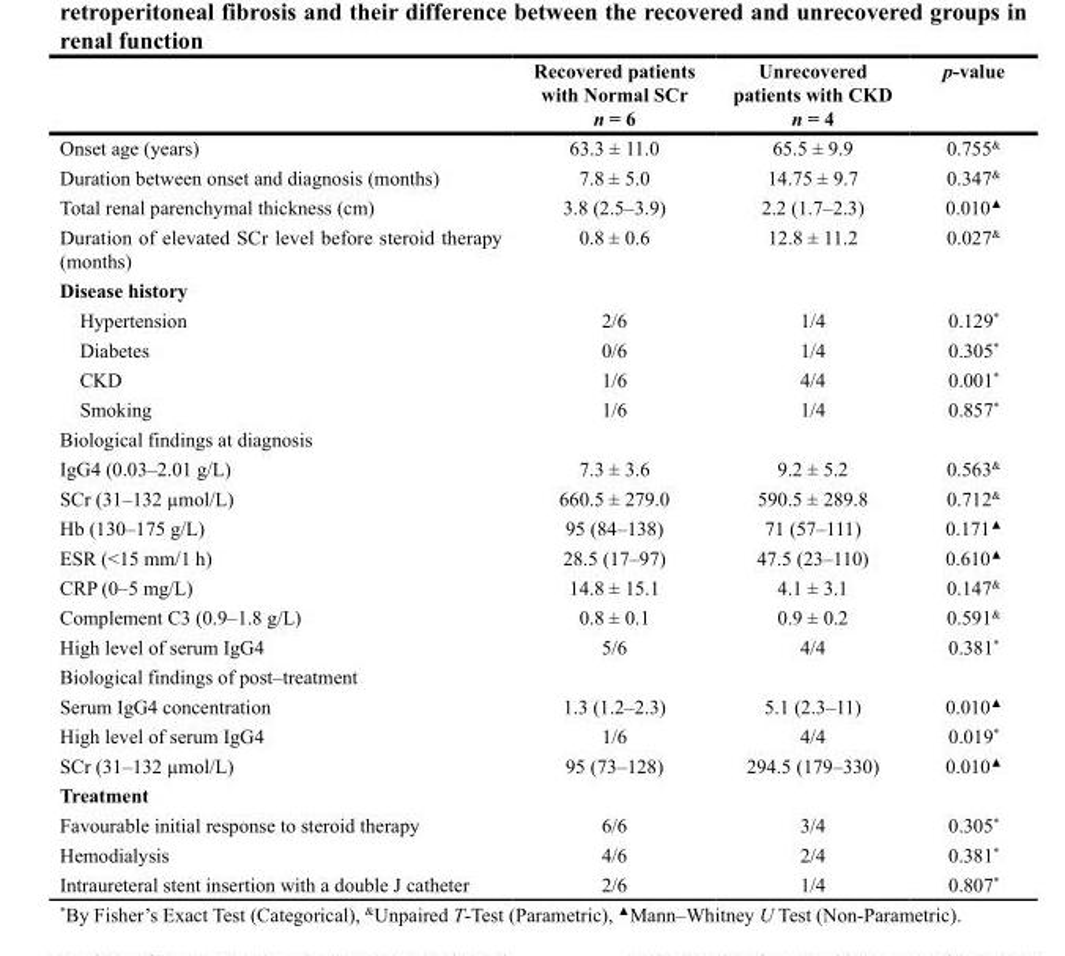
<table><thead><tr><td></td><td>Recovered patients with Normal SCr n = 6</td><td>Unrecovered patients with CKD n = 4</td><td>p-value</td></tr></thead><tbody><tr><td>Onset age (years)</td><td>63.3 ± 11.0</td><td>65.5 ± 9.9</td><td>0.755<sup>&amp;</sup></td></tr><tr><td>Duration between onset and diagnosis (months)</td><td>7.8 ± 5.0</td><td>14.75 ± 9.7</td><td>0.347<sup>&amp;</sup></td></tr><tr><td>Total renal parenchymal thickness (cm)</td><td>3.8 (2.5–3.9)</td><td>2.2 (1.7–2.3)</td><td>0.010<sup>▲</sup></td></tr><tr><td>Duration of elevated SCr level before steroid therapy (months)</td><td>0.8 ± 0.6</td><td>12.8 ± 11.2</td><td>0.027<sup>&amp;</sup></td></tr><tr><td colspan="4">Disease history</td></tr><tr><td>Hypertension</td><td>2/6</td><td>1/4</td><td>0.129*</td></tr><tr><td>Diabetes</td><td>0/6</td><td>1/4</td><td>0.305*</td></tr><tr><td>CKD</td><td>1/6</td><td>4/4</td><td>0.001*</td></tr><tr><td>Smoking</td><td>1/6</td><td>1/4</td><td>0.857*</td></tr><tr><td colspan="4">Biological findings at diagnosis</td></tr><tr><td>IgG4 (0.03–2.01 g/L)</td><td>7.3 ± 3.6</td><td>9.2 ± 5.2</td><td>0.563<sup>&amp;</sup></td></tr><tr><td>SCr (31–132 µmol/L)</td><td>660.5 ± 279.0</td><td>590.5 ± 289.8</td><td>0.712<sup>&amp;</sup></td></tr><tr><td>Hb (130–175 g/L)</td><td>95 (84–138)</td><td>71 (57–111)</td><td>0.171<sup>▲</sup></td></tr><tr><td>ESR (&lt;15 mm/1 h)</td><td>28.5 (17–97)</td><td>47.5 (23–110)</td><td>0.610<sup>▲</sup></td></tr><tr><td>CRP (0–5 mg/L)</td><td>14.8 ± 15.1</td><td>4.1 ± 3.1</td><td>0.147<sup>&amp;</sup></td></tr><tr><td>Complement C3 (0.9–1.8 g/L)</td><td>0.8 ± 0.1</td><td>0.9 ± 0.2</td><td>0.591<sup>&amp;</sup></td></tr><tr><td>High level of serum IgG4</td><td>5/6</td><td>4/4</td><td>0.381*</td></tr><tr><td colspan="4">Biological findings of post–treatment</td></tr><tr><td>Serum IgG4 concentration</td><td>1.3 (1.2–2.3)</td><td>5.1 (2.3–11)</td><td>0.010<sup>▲</sup></td></tr><tr><td>High level of serum IgG4</td><td>1/6</td><td>4/4</td><td>0.019*</td></tr><tr><td>SCr (31–132 µmol/L)</td><td>95 (73–128)</td><td>294.5 (179–330)</td><td>0.010<sup>▲</sup></td></tr><tr><td colspan="4">Treatment</td></tr><tr><td>Favourable initial response to steroid therapy</td><td>6/6</td><td>3/4</td><td>0.305*</td></tr><tr><td>Hemodialysis</td><td>4/6</td><td>2/4</td><td>0.381*</td></tr><tr><td>Intraureteral stent insertion with a double J catheter</td><td>2/6</td><td>1/4</td><td>0.807*</td></tr></tbody></table>